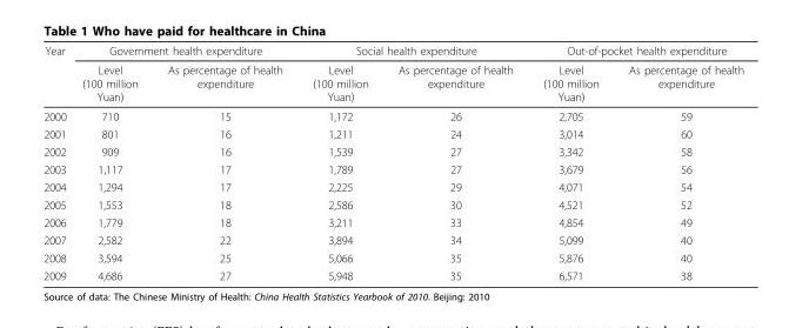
<table><thead><tr><td rowspan="2">Year</td><td colspan="2">Government health expenditure</td><td colspan="2">Social health expenditure</td><td colspan="2">Out-of-pocket health expenditure</td></tr><tr><td>Level (100 million Yuan)</td><td>As percentage of health expenditure</td><td>Level (100 million Yuan)</td><td>As percentage of health expenditure</td><td>Level (100 million Yuan)</td><td>As percentage of health expenditure</td></tr></thead><tbody><tr><td>2000</td><td>710</td><td>15</td><td>1,172</td><td>26</td><td>2,705</td><td>59</td></tr><tr><td>2001</td><td>801</td><td>16</td><td>1,211</td><td>24</td><td>3,014</td><td>60</td></tr><tr><td>2002</td><td>909</td><td>16</td><td>1,539</td><td>27</td><td>3,342</td><td>58</td></tr><tr><td>2003</td><td>1,117</td><td>17</td><td>1,789</td><td>27</td><td>3,679</td><td>56</td></tr><tr><td>2004</td><td>1,294</td><td>17</td><td>2,225</td><td>29</td><td>4,071</td><td>54</td></tr><tr><td>2005</td><td>1,553</td><td>18</td><td>2,586</td><td>30</td><td>4,521</td><td>52</td></tr><tr><td>2006</td><td>1,779</td><td>18</td><td>3,211</td><td>33</td><td>4,854</td><td>49</td></tr><tr><td>2007</td><td>2,582</td><td>22</td><td>3,894</td><td>34</td><td>5,099</td><td>40</td></tr><tr><td>2008</td><td>3,594</td><td>25</td><td>5,066</td><td>35</td><td>5,876</td><td>40</td></tr><tr><td>2009</td><td>4,686</td><td>27</td><td>5,948</td><td>35</td><td>6,571</td><td>38</td></tr></tbody></table>